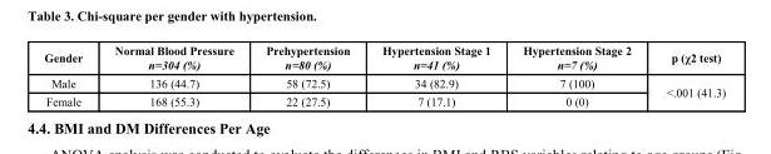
<table><thead><tr><td>Gender</td><td>Normal Blood Pressure n=304 (%)</td><td>Prehypertension n=80 (%)</td><td>Hypertension Stage 1 n=41 (%)</td><td>Hypertension Stage 2 n=7 (%)</td><td>p (χ2 test)</td></tr></thead><tbody><tr><td>Male</td><td>136 (44.7)</td><td>58 (72.5)</td><td>34 (82.9)</td><td>7 (100)</td><td rowspan="2">&lt;.001 (41.3)</td></tr><tr><td>Female</td><td>168 (55.3)</td><td>22 (27.5)</td><td>7 (17.1)</td><td>0 (0)</td></tr></tbody></table>